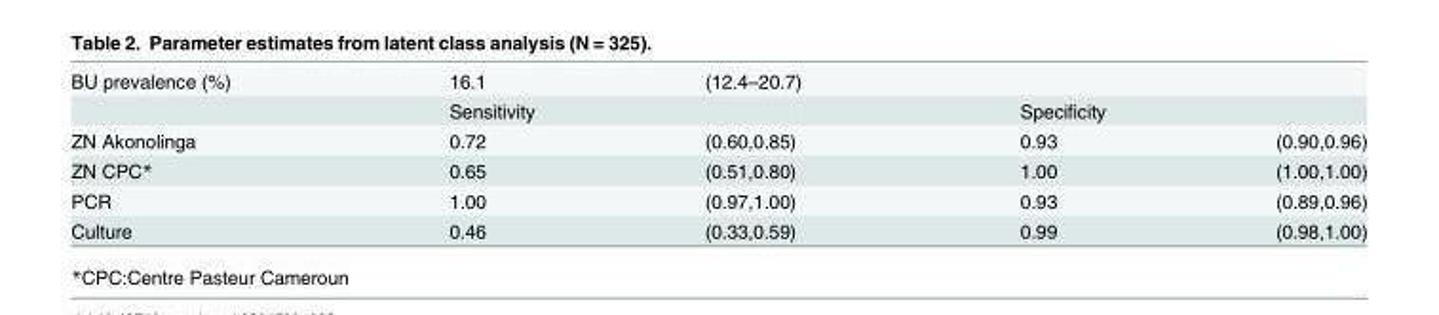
<table><tbody><tr><td rowspan="2">BU prevalence (%)</td><td>16.1</td><td>(12.4–20.7)</td><td></td><td></td></tr><tr><td colspan="2">Sensitivity</td><td colspan="2">Specificity</td></tr><tr><td>ZN Akonolinga</td><td>0.72</td><td>(0.60,0.85)</td><td>0.93</td><td>(0.90,0.96)</td></tr><tr><td>ZN CPC*</td><td>0.65</td><td>(0.51,0.80)</td><td>1.00</td><td>(1.00,1.00)</td></tr><tr><td>PCR</td><td>1.00</td><td>(0.97,1.00)</td><td>0.93</td><td>(0.89,0.96)</td></tr><tr><td>Culture</td><td>0.46</td><td>(0.33,0.59)</td><td>0.99</td><td>(0.98,1.00)</td></tr></tbody></table>